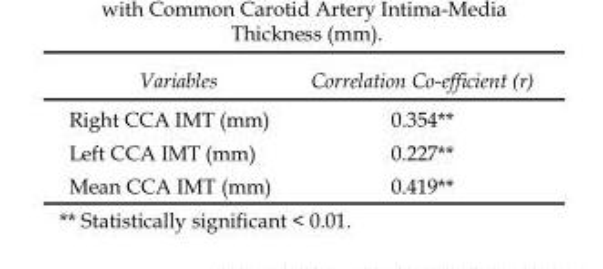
<table><thead><tr><td>Variables</td><td>Correlation Co-efficient (r)</td></tr></thead><tbody><tr><td>Right CCA IMT (mm)</td><td>0.354**</td></tr><tr><td>Left CCA IMT (mm)</td><td>0.227**</td></tr><tr><td>Mean CCA IMT (mm)</td><td>0.419**</td></tr></tbody></table>